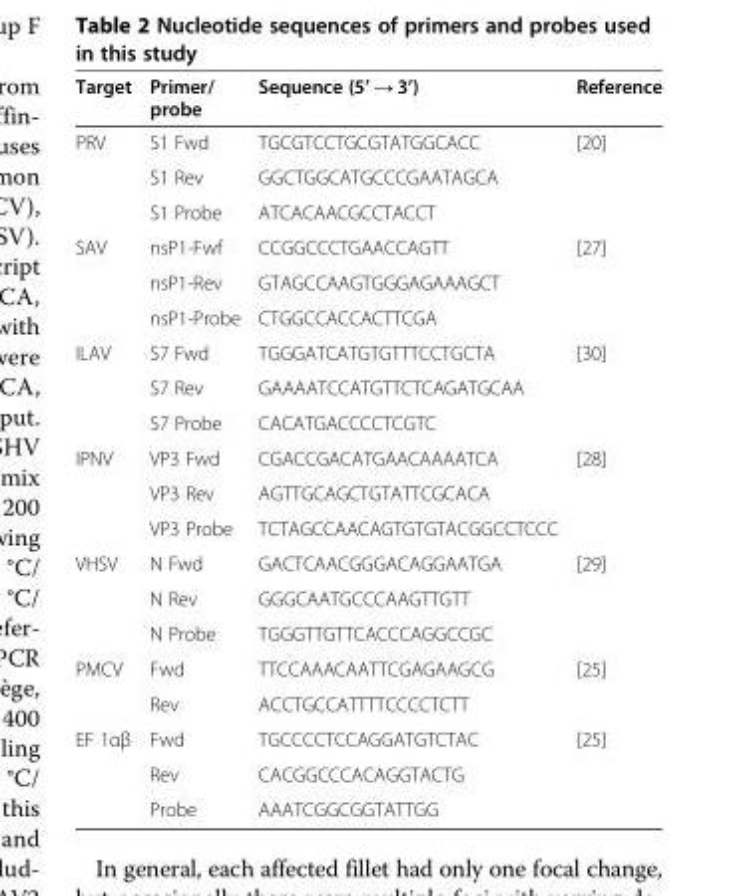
<table><thead><tr><td>Target</td><td>Primer/ probe</td><td>Sequence (5’ → 3’)</td><td>Reference</td></tr></thead><tbody><tr><td rowspan="3">PRV</td><td>S1 Fwd</td><td>TGCGTCCTGCGTATGGCACC</td><td rowspan="3">[20]</td></tr><tr><td>S1 Rev</td><td>GGCTGGCATGCCCGAATAGCA</td></tr><tr><td>S1 Probe</td><td>ATCACAACGCCTACCT</td></tr><tr><td rowspan="3">SAV</td><td>nsP1-Fwf</td><td>CCGGCCCTGAACCAGTT</td><td rowspan="3">[27]</td></tr><tr><td>nsP1-Rev</td><td>GTAGCCAAGTGGGAGAAAGCT</td></tr><tr><td>nsP1-Probe</td><td>CTGGCCACCACTTCGA</td></tr><tr><td rowspan="3">ILAV</td><td>S7 Fwd</td><td>TGGGATCATGTGTTTCCTGCTA</td><td rowspan="3">[30]</td></tr><tr><td>S7 Rev</td><td>GAAAATCCATGTTCTCAGATGCAA</td></tr><tr><td>S7 Probe</td><td>CACATGACCCCTCGTC</td></tr><tr><td rowspan="3">IPNV</td><td>VP3 Fwd</td><td>CGACCGACATGAACAAAATCA</td><td rowspan="3">[28]</td></tr><tr><td>VP3 Rev</td><td>AGTTGCAGCTGTATTCGCACA</td></tr><tr><td>VP3 Probe</td><td>TCTAGCCAACAGTGTGTACGGCCTCCC</td></tr><tr><td rowspan="3">VHSV</td><td>N Fwd</td><td>GACTCAACGGGACAGGAATGA</td><td rowspan="3">[29]</td></tr><tr><td>N Rev</td><td>GGGCAATGCCCAAGTTGTT</td></tr><tr><td>N Probe</td><td>TGGGTTGTTCACCCAGGCCGC</td></tr><tr><td rowspan="2">PMCV</td><td>Fwd</td><td>TTCCAAACAATTCGAGAAGCG</td><td rowspan="2">[25]</td></tr><tr><td>Rev</td><td>ACCTGCCATTTTCCCCTCTT</td></tr><tr><td rowspan="3">EF 1αβ</td><td>Fwd</td><td>TGCCCCTCCAGGATGTCTAC</td><td rowspan="3">[25]</td></tr><tr><td>Rev</td><td>CACGGCCCACAGGTACTG</td></tr><tr><td>Probe</td><td>AAATCGGCGGTATTGG</td></tr></tbody></table>